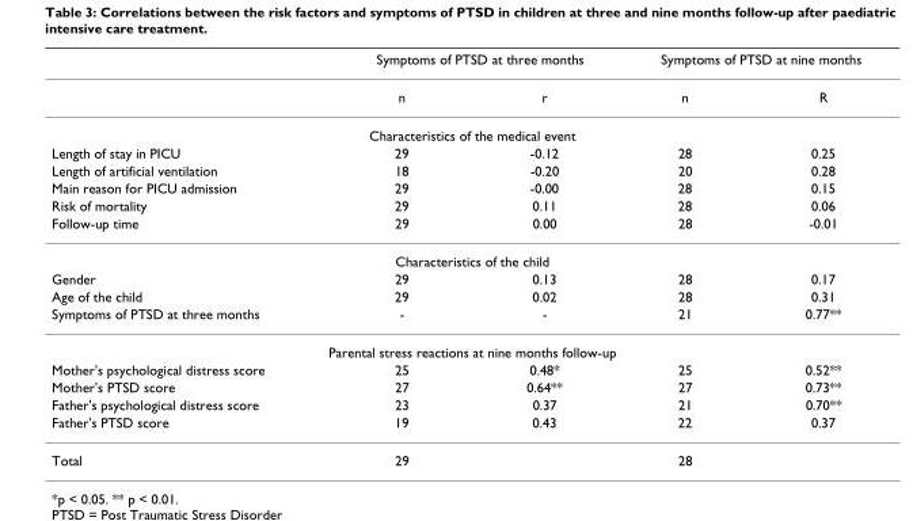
<table><thead><tr><td rowspan="2"></td><td colspan="2">Symptoms of PTSD at three months</td><td colspan="2">Symptoms of PTSD at nine months</td></tr><tr><td>n</td><td>r</td><td>n</td><td>R</td></tr></thead><tbody><tr><td colspan="5">Characteristics of the medical event</td></tr><tr><td>Length of stay in PICU</td><td>29</td><td>-0.12</td><td>28</td><td>0.25</td></tr><tr><td>Length of artificial ventilation</td><td>18</td><td>-0.20</td><td>20</td><td>0.28</td></tr><tr><td>Main reason for PICU admission</td><td>29</td><td>-0.00</td><td>28</td><td>0.15</td></tr><tr><td>Risk of mortality</td><td>29</td><td>0.11</td><td>28</td><td>0.06</td></tr><tr><td>Follow-up time</td><td>29</td><td>0.00</td><td>28</td><td>-0.01</td></tr><tr><td colspan="5">Characteristics of the child</td></tr><tr><td>Gender</td><td>29</td><td>0.13</td><td>28</td><td>0.17</td></tr><tr><td>Age of the child</td><td>29</td><td>0.02</td><td>28</td><td>0.31</td></tr><tr><td>Symptoms of PTSD at three months</td><td>-</td><td>-</td><td>21</td><td>0.77**</td></tr><tr><td colspan="5">Parental stress reactions at nine months follow-up</td></tr><tr><td>Mother&#x27;s psychological distress score</td><td>25</td><td>0.48*</td><td>25</td><td>0.52**</td></tr><tr><td>Mother&#x27;s PTSD score</td><td>27</td><td>0.64**</td><td>27</td><td>0.73**</td></tr><tr><td>Father&#x27;s psychological distress score</td><td>23</td><td>0.37</td><td>21</td><td>0.70**</td></tr><tr><td>Father&#x27;s PTSD score</td><td>19</td><td>0.43</td><td>22</td><td>0.37</td></tr><tr><td>Total</td><td>29</td><td></td><td>28</td><td></td></tr></tbody></table>